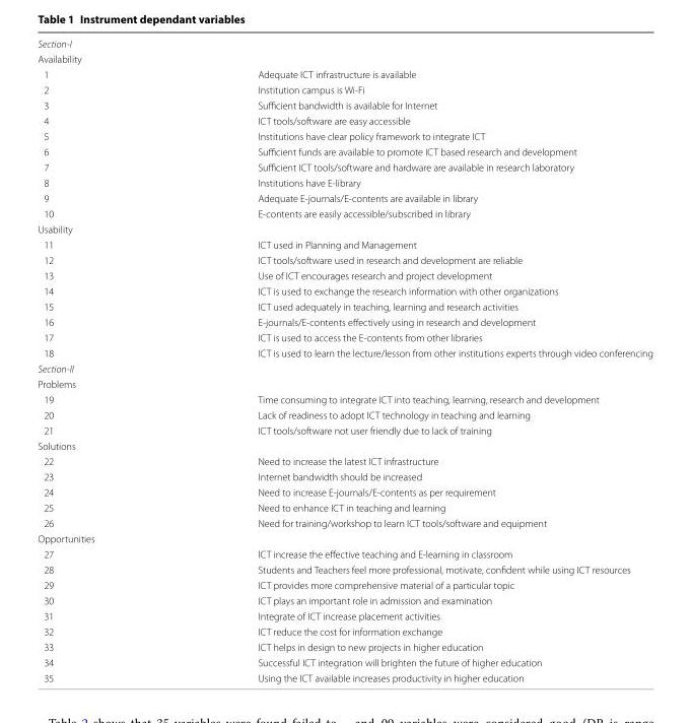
<table><tbody><tr><td colspan="2">Section-I</td></tr><tr><td colspan="2">Availability</td></tr><tr><td>1</td><td>Adequate ICT infrastructure is available</td></tr><tr><td>2</td><td>Institution campus is Wi-Fi</td></tr><tr><td>3</td><td>Sufficient bandwidth is available for Internet</td></tr><tr><td>4</td><td>ICT tools/software are easy accessible</td></tr><tr><td>5</td><td>Institutions have clear policy framework to integrate ICT</td></tr><tr><td>6</td><td>Sufficient funds are available to promote ICT based research and development</td></tr><tr><td>7</td><td>Sufficient ICT tools/software and hardware are available in research laboratory</td></tr><tr><td>8</td><td>Institutions have E-library</td></tr><tr><td>9</td><td>Adequate E-journals/E-contents are available in library</td></tr><tr><td>10</td><td>E-contents are easily accessible/subscribed in library</td></tr><tr><td colspan="2">Usability</td></tr><tr><td>11</td><td>ICT used in Planning and Management</td></tr><tr><td>12</td><td>ICT tools/software used in research and development are reliable</td></tr><tr><td>13</td><td>Use of ICT encourages research and project development</td></tr><tr><td>14</td><td>ICT is used to exchange the research information with other organizations</td></tr><tr><td>15</td><td>ICT used adequately in teaching, learning and research activities</td></tr><tr><td>16</td><td>E-journals/E-contents effectively using in research and development</td></tr><tr><td>17</td><td>ICT is used to access the E-contents from other libraries</td></tr><tr><td>18</td><td>ICT is used to learn the lecture/lesson from other institutions experts through video conferencing</td></tr><tr><td colspan="2">Section-II</td></tr><tr><td colspan="2">Problems</td></tr><tr><td>19</td><td>Time consuming to integrate ICT into teaching, learning, research and development</td></tr><tr><td>20</td><td>Lack of readiness to adopt ICT technology in teaching and learning</td></tr><tr><td>21</td><td>ICT tools/software not user friendly due to lack of training</td></tr><tr><td colspan="2">Solutions</td></tr><tr><td>22</td><td>Need to increase the latest ICT infrastructure</td></tr><tr><td>23</td><td>Internet bandwidth should be increased</td></tr><tr><td>24</td><td>Need to increase E-journals/E-contents as per requirement</td></tr><tr><td>25</td><td>Need to enhance ICT in teaching and learning</td></tr><tr><td>26</td><td>Need for training/workshop to learn ICT tools/software and equipment</td></tr><tr><td colspan="2">Opportunities</td></tr><tr><td>27</td><td>ICT increase the effective teaching and E-learning in classroom</td></tr><tr><td>28</td><td>Students and Teachers feel more professional, motivate, confident while using ICT resources</td></tr><tr><td>29</td><td>ICT provides more comprehensive material of a particular topic</td></tr><tr><td>30</td><td>ICT plays an important role in admission and examination</td></tr><tr><td>31</td><td>Integrate of ICT increase placement activities</td></tr><tr><td>32</td><td>ICT reduce the cost for information exchange</td></tr><tr><td>33</td><td>ICT helps in design to new projects in higher education</td></tr><tr><td>34</td><td>Successful ICT integration will brighten the future of higher education</td></tr><tr><td>35</td><td>Using the ICT available increases productivity in higher education</td></tr></tbody></table>